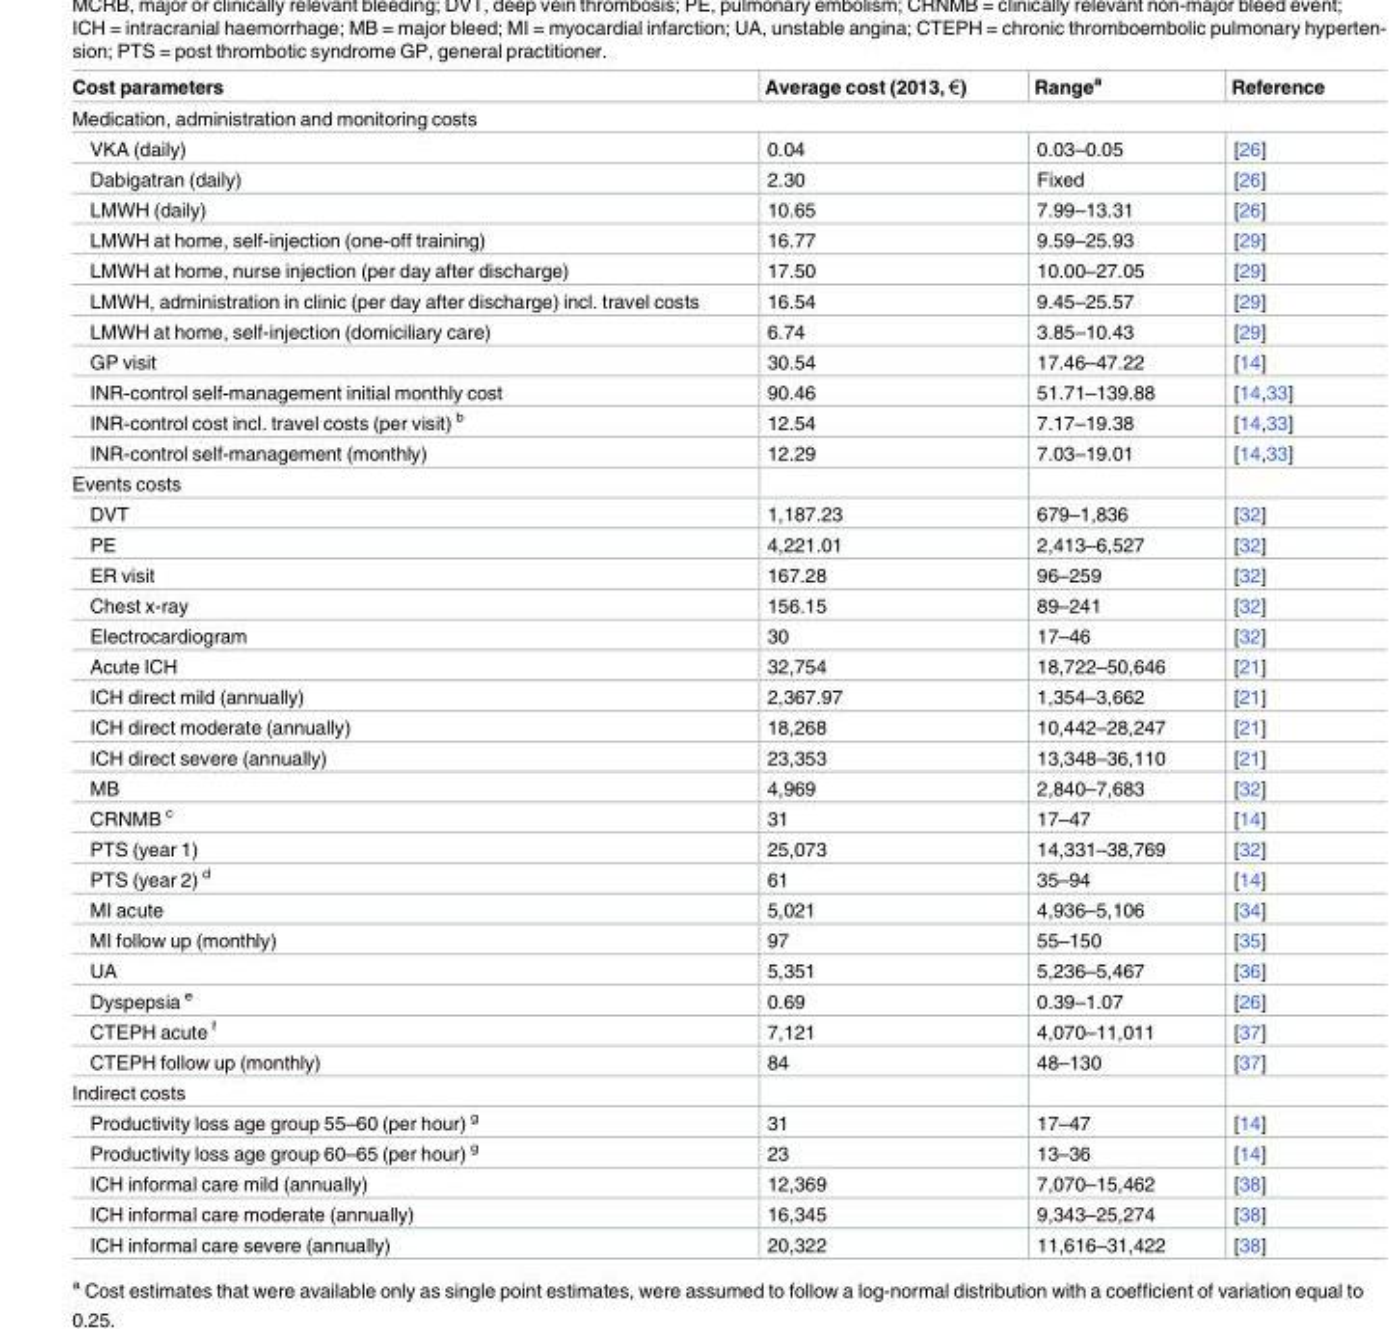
<table><thead><tr><td>Cost parameters</td><td>Average cost (2013, €)</td><td>Range<sup>a</sup></td><td>Reference</td></tr></thead><tbody><tr><td colspan="4">Medication, administration and monitoring costs</td></tr><tr><td>VKA (daily)</td><td>0.04</td><td>0.03–0.05</td><td>[26]</td></tr><tr><td>Dabigatran (daily)</td><td>2.30</td><td>Fixed</td><td>[26]</td></tr><tr><td>LMWH (daily)</td><td>10.65</td><td>7.99–13.31</td><td>[26]</td></tr><tr><td>LMWH at home, self-injection (one-off training)</td><td>16.77</td><td>9.59–25.93</td><td>[29]</td></tr><tr><td>LMWH at home, nurse injection (per day after discharge)</td><td>17.50</td><td>10.00–27.05</td><td>[29]</td></tr><tr><td>LMWH, administration in clinic (per day after discharge) incl. travel costs</td><td>16.54</td><td>9.45–25.57</td><td>[29]</td></tr><tr><td>LMWH at home, self-injection (domiciliary care)</td><td>6.74</td><td>3.85–10.43</td><td>[29]</td></tr><tr><td>GP visit</td><td>30.54</td><td>17.46–47.22</td><td>[14]</td></tr><tr><td>INR-control self-management initial monthly cost</td><td>90.46</td><td>51.71–139.88</td><td>[14,33]</td></tr><tr><td>INR-control cost incl. travel costs (per visit) <sup>b</sup></td><td>12.54</td><td>7.17–19.38</td><td>[14,33]</td></tr><tr><td>INR-control self-management (monthly)</td><td>12.29</td><td>7.03–19.01</td><td>[14,33]</td></tr><tr><td colspan="4">Events costs</td></tr><tr><td>DVT</td><td>1,187.23</td><td>679–1,836</td><td>[32]</td></tr><tr><td>PE</td><td>4,221.01</td><td>2,413–6,527</td><td>[32]</td></tr><tr><td>ER visit</td><td>167.28</td><td>96–259</td><td>[32]</td></tr><tr><td>Chest x-ray</td><td>156.15</td><td>89–241</td><td>[32]</td></tr><tr><td>Electrocardiogram</td><td>30</td><td>17–46</td><td>[32]</td></tr><tr><td>Acute ICH</td><td>32,754</td><td>18,722–50,646</td><td>[21]</td></tr><tr><td>ICH direct mild (annually)</td><td>2,367.97</td><td>1,354–3,662</td><td>[21]</td></tr><tr><td>ICH direct moderate (annually)</td><td>18,268</td><td>10,442–28,247</td><td>[21]</td></tr><tr><td>ICH direct severe (annually)</td><td>23,353</td><td>13,348–36,110</td><td>[21]</td></tr><tr><td>MB</td><td>4,969</td><td>2,840–7,683</td><td>[32]</td></tr><tr><td>CRNMB <sup>c</sup></td><td>31</td><td>17–47</td><td>[14]</td></tr><tr><td>PTS (year 1)</td><td>25,073</td><td>14,331–38,769</td><td>[32]</td></tr><tr><td>PTS (year 2) <sup>d</sup></td><td>61</td><td>35–94</td><td>[14]</td></tr><tr><td>MI acute</td><td>5,021</td><td>4,936–5,106</td><td>[34]</td></tr><tr><td>MI follow up (monthly)</td><td>97</td><td>55–150</td><td>[35]</td></tr><tr><td>UA</td><td>5,351</td><td>5,236–5,467</td><td>[36]</td></tr><tr><td>Dyspepsia <sup>e</sup></td><td>0.69</td><td>0.39–1.07</td><td>[26]</td></tr><tr><td>CTEPH acute <sup>f</sup></td><td>7,121</td><td>4,070–11,011</td><td>[37]</td></tr><tr><td>CTEPH follow up (monthly)</td><td>84</td><td>48–130</td><td>[37]</td></tr><tr><td colspan="4">Indirect costs</td></tr><tr><td>Productivity loss age group 55–60 (per hour) <sup>g</sup></td><td>31</td><td>17–47</td><td>[14]</td></tr><tr><td>Productivity loss age group 60–65 (per hour) <sup>g</sup></td><td>23</td><td>13–36</td><td>[14]</td></tr><tr><td>ICH informal care mild (annually)</td><td>12,369</td><td>7,070–15,462</td><td>[38]</td></tr><tr><td>ICH informal care moderate (annually)</td><td>16,345</td><td>9,343–25,274</td><td>[38]</td></tr><tr><td>ICH informal care severe (annually)</td><td>20,322</td><td>11,616–31,422</td><td>[38]</td></tr></tbody></table>